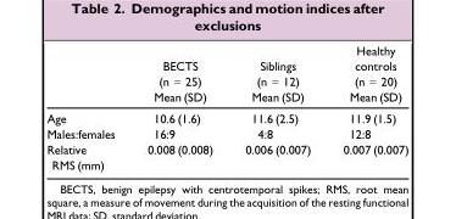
<table><thead><tr><td></td><td>BECTS (n = 25) Mean (SD)</td><td>Siblings (n = 12) Mean (SD)</td><td>Healthy controls (n = 20) Mean (SD)</td></tr></thead><tbody><tr><td>Age</td><td>10.6 (1.6)</td><td>11.6 (2.5)</td><td>11.9 (1.5)</td></tr><tr><td>Males:females</td><td>16:9</td><td>4:8</td><td>12:8</td></tr><tr><td>Relative RMS (mm)</td><td>0.008 (0.008)</td><td>0.006 (0.007)</td><td>0.007 (0.007)</td></tr></tbody></table>